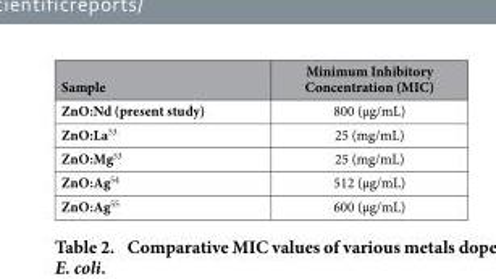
<table><thead><tr><td>Sample</td><td>Minimum Inhibitory Concentration (MIC)</td></tr></thead><tbody><tr><td>ZnO:Nd (present study)</td><td>800 (μg/mL)</td></tr><tr><td>ZnO:La<sup>53</sup></td><td>25 (mg/mL)</td></tr><tr><td>ZnO:Mg<sup>53</sup></td><td>25 (mg/mL)</td></tr><tr><td>ZnO:Ag<sup>54</sup></td><td>512 (μg/mL)</td></tr><tr><td>ZnO:Ag<sup>55</sup></td><td>600 (μg/mL)</td></tr></tbody></table>